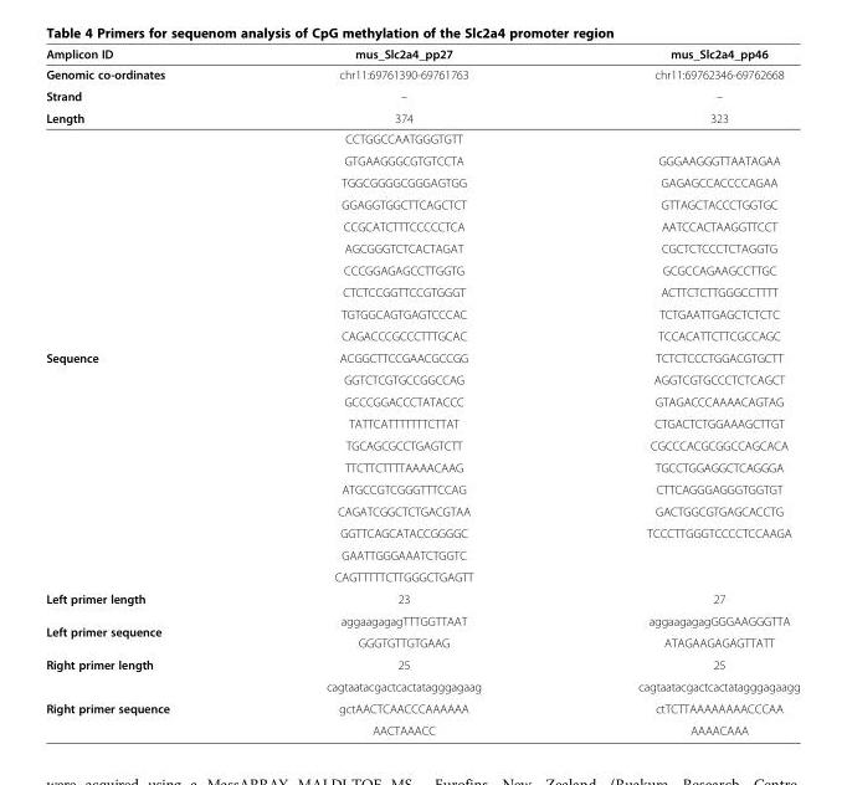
<table><thead><tr><td>Amplicon ID</td><td>mus_Slc2a4_pp27</td><td>mus_Slc2a4_pp46</td></tr></thead><tbody><tr><td>Genomic co-ordinates</td><td>chr11:69761390-69761763</td><td>chr11:69762346-69762668</td></tr><tr><td>Strand</td><td>–</td><td>–</td></tr><tr><td>Length</td><td>374</td><td>323</td></tr><tr><td rowspan="21">Sequence</td><td>CCTGGCCAATGGGTGTT</td><td></td></tr><tr><td>GTGAAGGGCGTGTCCTA</td><td>GGGAAGGGTTAATAGAA</td></tr><tr><td>TGGCGGGGCGGGAGTGG</td><td>GAGAGCCACCCCAGAA</td></tr><tr><td>GGAGGTGGCTTCAGCTCT</td><td>GTTAGCTACCCTGGTGC</td></tr><tr><td>CCGCATCTTTCCCCCTCA</td><td>AATCCACTAAGGTTCCT</td></tr><tr><td>AGCGGGTCTCACTAGAT</td><td>CGCTCTCCCTCTAGGTG</td></tr><tr><td>CCCGGAGAGCCTTGGTG</td><td>GCGCCAGAAGCCTTGC</td></tr><tr><td>CTCTCCGGTTCCGTGGGT</td><td>ACTTCTCTTGGGCCTTTT</td></tr><tr><td>TGTGGCAGTGAGTCCCAC</td><td>TCTGAATTGAGCTCTCTC</td></tr><tr><td>CAGACCCGCCCTTTGCAC</td><td>TCCACATTCTTCGCCAGC</td></tr><tr><td>ACGGCTTCCGAACGCCGG</td><td>TCTCTCCCTGGACGTGCTT</td></tr><tr><td>GGTCTCGTGCCGGCCAG</td><td>AGGTCGTGCCCTCTCAGCT</td></tr><tr><td>GCCCGGACCCTATACCC</td><td>GTAGACCCAAAACAGTAG</td></tr><tr><td>TATTCATTTTTTTCTTAT</td><td>CTGACTCTGGAAAGCTTGT</td></tr><tr><td>TGCAGCGCCTGAGTCTT</td><td>CGCCCACGCGGCCAGCACA</td></tr><tr><td>TTCTTCTTTTAAAACAAG</td><td>TGCCTGGAGGCTCAGGGA</td></tr><tr><td>ATGCCGTCGGGTTTCCAG</td><td>CTTCAGGGAGGGTGGTGT</td></tr><tr><td>CAGATCGGCTCTGACGTAA</td><td>GACTGGCGTGAGCACCTG</td></tr><tr><td>GGTTCAGCATACCGGGGC</td><td>TCCCTTGGGTCCCCTCCAAGA</td></tr><tr><td>GAATTGGGAAATCTGGTC</td><td rowspan="2"></td></tr><tr><td>CAGTTTTTCTTGGGCTGAGTT</td></tr><tr><td>Left primer length</td><td>23</td><td>27</td></tr><tr><td rowspan="2">Left primer sequence</td><td>aggaagagagTTTGGTTAAT</td><td>aggaagagagGGGAAGGGTTA</td></tr><tr><td>GGGTGTTGTGAAG</td><td>ATAGAAGAGAGTTATT</td></tr><tr><td>Right primer length</td><td>25</td><td>25</td></tr><tr><td rowspan="3">Right primer sequence</td><td>cagtaatacgactcactatagggagaag</td><td>cagtaatacgactcactatagggagaagg</td></tr><tr><td>gctAACTCAACCCAAAAAA</td><td>ctTCTTAAAAAAAACCCAA</td></tr><tr><td>AACTAAACC</td><td>AAAACAAA</td></tr></tbody></table>